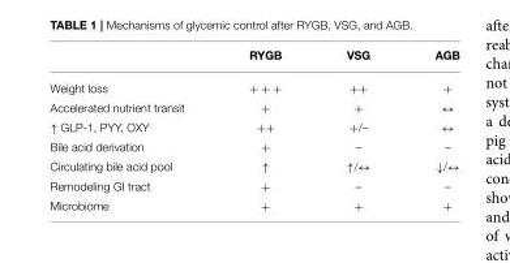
<table><thead><tr><td></td><td>RYGB</td><td>VSG</td><td>AGB</td></tr></thead><tbody><tr><td>Weight loss</td><td>+ + +</td><td>++</td><td>+</td></tr><tr><td>Accelerated nutrient transit</td><td>+</td><td>+</td><td>↔</td></tr><tr><td>↑ GLP-1, PYY, OXY</td><td>++</td><td>+/–</td><td>↔</td></tr><tr><td>Bile acid derivation</td><td>+</td><td>–</td><td>–</td></tr><tr><td>Circulating bile acid pool</td><td>↑</td><td>↑/↔</td><td>↓/↔</td></tr><tr><td>Remodeling GI tract</td><td>+</td><td>–</td><td>–</td></tr><tr><td>Microbiome</td><td>+</td><td>+</td><td>+</td></tr></tbody></table>